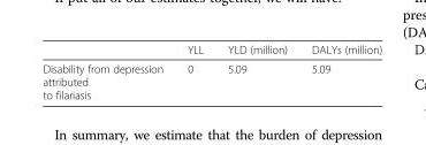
<table><thead><tr><td></td><td>YLL</td><td>YLD (million)</td><td>DALYs (million)</td></tr></thead><tbody><tr><td>Disability from depression attributed to filariasis</td><td>0</td><td>5.09</td><td>5.09</td></tr></tbody></table>